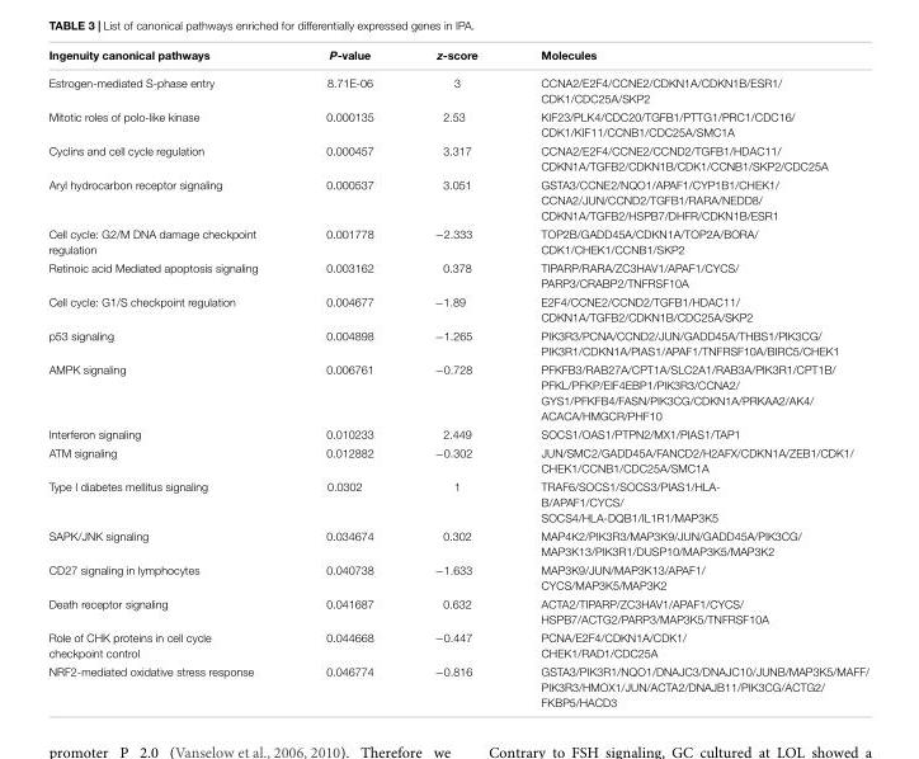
<table><thead><tr><td>Ingenuity canonical pathways</td><td>P-value</td><td>z-score</td><td>Molecules</td></tr></thead><tbody><tr><td>Estrogen-mediated S-phase entry</td><td>8.71E-06</td><td>3</td><td>CCNA2/E2F4/CCNE2/CDKN1A/CDKN1B/ESR1/ CDK1/CDC25A/SKP2</td></tr><tr><td>Mitotic roles of polo-like kinase</td><td>0.000135</td><td>2.53</td><td>KIF23/PLK4/CDC20/TGFB1/PTTG1/PRC1/CDC16/ CDK1/KIF11/CCNB1/CDC25A/SMC1A</td></tr><tr><td>Cyclins and cell cycle regulation</td><td>0.000457</td><td>3.317</td><td>CCNA2/E2F4/CCNE2/CCND2/TGFB1/HDAC11/ CDKN1A/TGFB2/CDKN1B/CDK1/CCNB1/SKP2/CDC25A</td></tr><tr><td>Aryl hydrocarbon receptor signaling</td><td>0.000537</td><td>3.051</td><td>GSTA3/CCNE2/NQO1/APAF1/CYP1B1/CHEK1/ CCNA2/JUN/CCND2/TGFB1/RARA/NEDD8/ CDKN1A/TGFB2/HSPB7/DHFR/CDKN1B/ESR1</td></tr><tr><td>Cell cycle: G2/M DNA damage checkpoint regulation</td><td>0.001778</td><td>−2.333</td><td>TOP2B/GADD45A/CDKN1A/TOP2A/BORA/ CDK1/CHEK1/CCNB1/SKP2</td></tr><tr><td>Retinoic acid Mediated apoptosis signaling</td><td>0.003162</td><td>0.378</td><td>TIPARP/RARA/ZC3HAV1/APAF1/CYCS/ PARP3/CRABP2/TNFRSF10A</td></tr><tr><td>Cell cycle: G1/S checkpoint regulation</td><td>0.004677</td><td>−1.89</td><td>E2F4/CCNE2/CCND2/TGFB1/HDAC11/ CDKN1A/TGFB2/CDKN1B/CDC25A/SKP2</td></tr><tr><td>p53 signaling</td><td>0.004898</td><td>−1.265</td><td>PIK3R3/PCNA/CCND2/JUN/GADD45A/THBS1/PIK3CG/ PIK3R1/CDKN1A/PIAS1/APAF1/TNFRSF10A/BIRC5/CHEK1</td></tr><tr><td>AMPK signaling</td><td>0.006761</td><td>−0.728</td><td>PFKFB3/RAB27A/CPT1A/SLC2A1/RAB3A/PIK3R1/CPT1B/ PFKL/PFKP/EIF4EBP1/PIK3R3/CCNA2/ GYS1/PFKFB4/FASN/PIK3CG/CDKN1A/PRKAA2/AK4/ ACACA/HMGCR/PHF10</td></tr><tr><td>Interferon signaling</td><td>0.010233</td><td>2.449</td><td>SOCS1/OAS1/PTPN2/MX1/PIAS1/TAP1</td></tr><tr><td>ATM signaling</td><td>0.012882</td><td>−0.302</td><td>JUN/SMC2/GADD45A/FANCD2/H2AFX/CDKN1A/ZEB1/CDK1/ CHEK1/CCNB1/CDC25A/SMC1A</td></tr><tr><td>Type I diabetes mellitus signaling</td><td>0.0302</td><td>1</td><td>TRAF6/SOCS1/SOCS3/PIAS1/HLA- B/APAF1/CYCS/ SOCS4/HLA-DQB1/IL1R1/MAP3K5</td></tr><tr><td>SAPK/JNK signaling</td><td>0.034674</td><td>0.302</td><td>MAP4K2/PIK3R3/MAP3K9/JUN/GADD45A/PIK3CG/ MAP3K13/PIK3R1/DUSP10/MAP3K5/MAP3K2</td></tr><tr><td>CD27 signaling in lymphocytes</td><td>0.040738</td><td>−1.633</td><td>MAP3K9/JUN/MAP3K13/APAF1/ CYCS/MAP3K5/MAP3K2</td></tr><tr><td>Death receptor signaling</td><td>0.041687</td><td>0.632</td><td>ACTA2/TIPARP/ZC3HAV1/APAF1/CYCS/ HSPB7/ACTG2/PARP3/MAP3K5/TNFRSF10A</td></tr><tr><td>Role of CHK proteins in cell cycle checkpoint control</td><td>0.044668</td><td>−0.447</td><td>PCNA/E2F4/CDKN1A/CDK1/ CHEK1/RAD1/CDC25A</td></tr><tr><td>NRF2-mediated oxidative stress response</td><td>0.046774</td><td>−0.816</td><td>GSTA3/PIK3R1/NQO1/DNAJC3/DNAJC10/JUNB/MAP3K5/MAFF/ PIK3R3/HMOX1/JUN/ACTA2/DNAJB11/PIK3CG/ACTG2/ FKBP5/HACD3</td></tr></tbody></table>